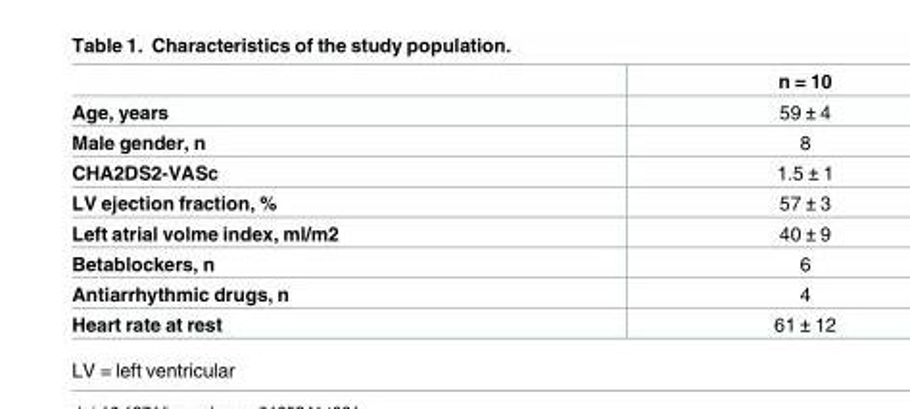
<table><thead><tr><td></td><td>n = 10</td></tr></thead><tbody><tr><td>Age, years</td><td>59 ± 4</td></tr><tr><td>Male gender, n</td><td>8</td></tr><tr><td>CHA2DS2-VASc</td><td>1.5 ± 1</td></tr><tr><td>LV ejection fraction, %</td><td>57 ± 3</td></tr><tr><td>Left atrial volme index, ml/m2</td><td>40 ± 9</td></tr><tr><td>Betablockers, n</td><td>6</td></tr><tr><td>Antiarrhythmic drugs, n</td><td>4</td></tr><tr><td>Heart rate at rest</td><td>61 ± 12</td></tr></tbody></table>